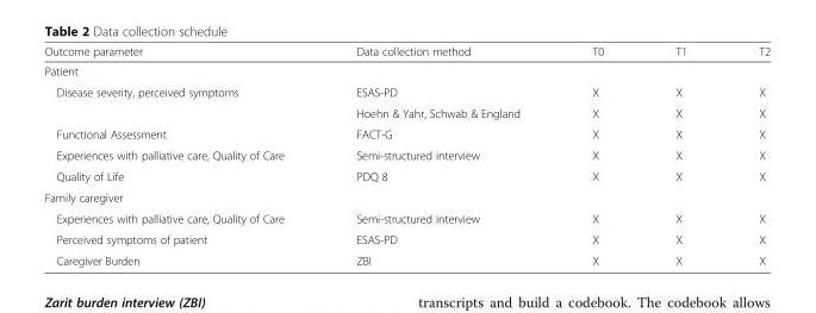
<table><thead><tr><td>Outcome parameter</td><td>Data collection method</td><td>T0</td><td>T1</td><td>T2</td></tr></thead><tbody><tr><td colspan="5">Patient</td></tr><tr><td rowspan="2">Disease severity, perceived symptoms</td><td>ESAS-PD</td><td>X</td><td>X</td><td>X</td></tr><tr><td>Hoehn &amp; Yahr, Schwab &amp; England</td><td>X</td><td>X</td><td>X</td></tr><tr><td>Functional Assessment</td><td>FACT-G</td><td>X</td><td>X</td><td>X</td></tr><tr><td>Experiences with palliative care, Quality of Care</td><td>Semi-structured interview</td><td>X</td><td>X</td><td>X</td></tr><tr><td>Quality of Life</td><td>PDQ 8</td><td>X</td><td>X</td><td>X</td></tr><tr><td colspan="5">Family caregiver</td></tr><tr><td>Experiences with palliative care, Quality of Care</td><td>Semi-structured interview</td><td>X</td><td>X</td><td>X</td></tr><tr><td>Perceived symptoms of patient</td><td>ESAS-PD</td><td>X</td><td>X</td><td>X</td></tr><tr><td>Caregiver Burden</td><td>ZBI</td><td>X</td><td>X</td><td>X</td></tr></tbody></table>